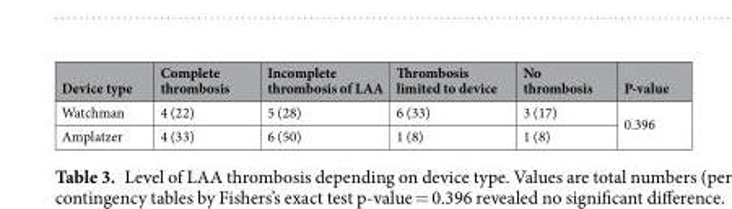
<table><thead><tr><td>Device type</td><td>Complete thrombosis</td><td>Incomplete thrombosis of LAA</td><td>Thrombosis limited to device</td><td>No thrombosis</td><td>P-value</td></tr></thead><tbody><tr><td>Watchman</td><td>4 (22)</td><td>5 (28)</td><td>6 (33)</td><td>3 (17)</td><td rowspan="2">0.396</td></tr><tr><td>Amplatzer</td><td>4 (33)</td><td>6 (50)</td><td>1 (8)</td><td>1 (8)</td></tr></tbody></table>